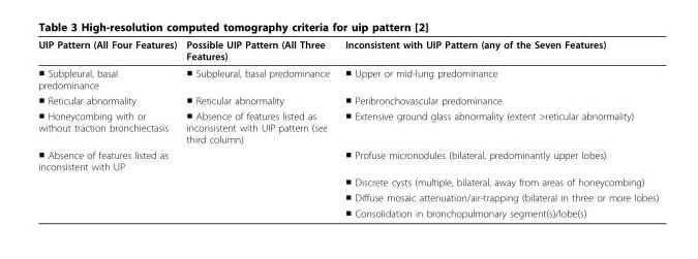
<table><thead><tr><td>UIP Pattern (All Four Features)</td><td>Possible UIP Pattern (All Three Features)</td><td>Inconsistent with UIP Pattern (any of the Seven Features)</td></tr></thead><tbody><tr><td>■ Subpleural, basal predominance</td><td>■ Subpleural, basal predominance</td><td>■ Upper or mid-lung predominance</td></tr><tr><td>■ Reticular abnormality</td><td>■ Reticular abnormality</td><td>■ Peribronchovascular predominance</td></tr><tr><td>■ Honeycombing with or without traction bronchiectasis</td><td>■ Absence of features listed as inconsistent with UIP pattern (see third column)</td><td>■ Extensive ground glass abnormality (extent &gt;reticular abnormality)</td></tr><tr><td rowspan="4">■ Absence of features listed as inconsistent with UP</td><td></td><td>■ Profuse micronodules (bilateral, predominantly upper lobes)</td></tr><tr><td></td><td>■ Discrete cysts (multiple, bilateral, away from areas of honeycombing)</td></tr><tr><td></td><td>■ Diffuse mosaic attenuation/air-trapping (bilateral in three or more lobes)</td></tr><tr><td></td><td>■ Consolidation in bronchopulmonary segment(s)/lobe(s)</td></tr></tbody></table>